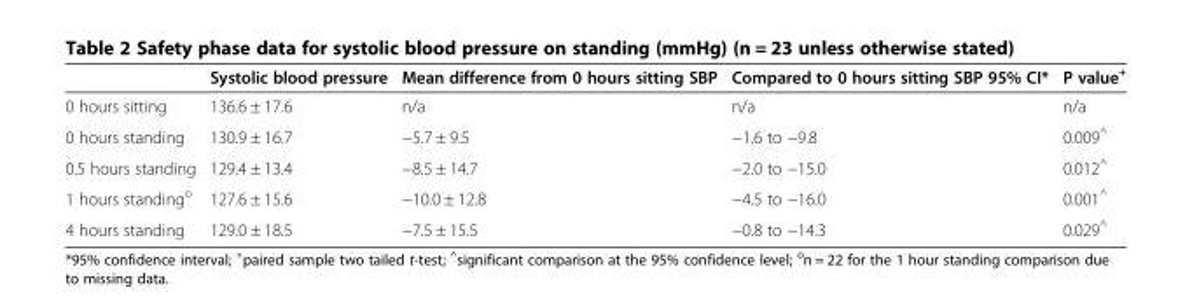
<table><thead><tr><td></td><td>Systolic blood pressure</td><td>Mean difference from 0 hours sitting SBP</td><td>Compared to 0 hours sitting SBP 95% CI*</td><td>P value<sup>+</sup></td></tr></thead><tbody><tr><td>0 hours sitting</td><td>136.6 ± 17.6</td><td>n/a</td><td>n/a</td><td>n/a</td></tr><tr><td>0 hours standing</td><td>130.9 ± 16.7</td><td>−5.7 ± 9.5</td><td>−1.6 to −9.8</td><td>0.009<sup>^</sup></td></tr><tr><td>0.5 hours standing</td><td>129.4 ± 13.4</td><td>−8.5 ± 14.7</td><td>−2.0 to −15.0</td><td>0.012<sup>^</sup></td></tr><tr><td>1 hours standing<sup>o</sup></td><td>127.6 ± 15.6</td><td>−10.0 ± 12.8</td><td>−4.5 to −16.0</td><td>0.001<sup>^</sup></td></tr><tr><td>4 hours standing</td><td>129.0 ± 18.5</td><td>−7.5 ± 15.5</td><td>−0.8 to −14.3</td><td>0.029<sup>^</sup></td></tr></tbody></table>